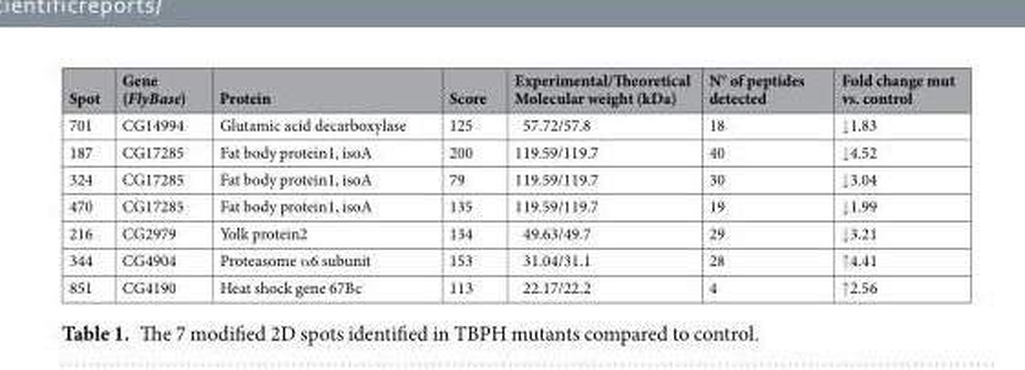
<table><thead><tr><td>Spot</td><td>Gene (FlyBase)</td><td>Protein</td><td>Score</td><td>Experimental/Theoretical Molecular weight (kDa)</td><td>N° of peptides detected</td><td>Fold change mut vs. control</td></tr></thead><tbody><tr><td>701</td><td>CG14994</td><td>Glutamic acid decarboxylase</td><td>125</td><td>57.72/57.8</td><td>18</td><td>↓1.83</td></tr><tr><td>187</td><td>CG17285</td><td>Fat body protein1, isoA</td><td>200</td><td>119.59/119.7</td><td>40</td><td>↓4.52</td></tr><tr><td>324</td><td>CG17285</td><td>Fat body protein1, isoA</td><td>79</td><td>119.59/119.7</td><td>30</td><td>↓3.04</td></tr><tr><td>470</td><td>CG17285</td><td>Fat body protein1, isoA</td><td>135</td><td>119.59/119.7</td><td>19</td><td>↓1.99</td></tr><tr><td>216</td><td>CG2979</td><td>Yolk protein2</td><td>134</td><td>49.63/49.7</td><td>29</td><td>↓3.21</td></tr><tr><td>344</td><td>CG4904</td><td>Proteasome α6 subunit</td><td>153</td><td>31.04/31.1</td><td>28</td><td>↑4.41</td></tr><tr><td>851</td><td>CG4190</td><td>Heat shock gene 67Bc</td><td>113</td><td>22.17/22.2</td><td>4</td><td>↑2.56</td></tr></tbody></table>